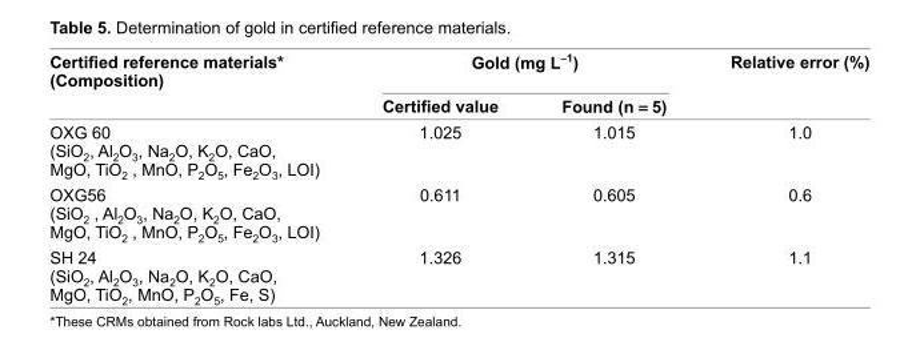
<table><thead><tr><td rowspan="2">Certifi ed reference materials* (Composition)</td><td colspan="2">Gold (mg L<sup>−1</sup>)</td><td rowspan="2">Relative error (%)</td></tr><tr><td>Certifi ed value</td><td>Found (n = 5)</td></tr></thead><tbody><tr><td>OXG 60 (SiO<sub>2</sub>, Al<sub>2</sub>O<sub>3</sub>, Na<sub>2</sub>O, K<sub>2</sub>O, CaO, MgO, TiO<sub>2</sub> , MnO, P<sub>2</sub>O<sub>5</sub>, Fe<sub>2</sub>O<sub>3</sub>, LOI)</td><td>1.025</td><td>1.015</td><td>1.0</td></tr><tr><td>OXG56 (SiO<sub>2</sub> , Al<sub>2</sub>O<sub>3</sub>, Na<sub>2</sub>O, K<sub>2</sub>O, CaO, MgO, TiO<sub>2</sub> , MnO, P<sub>2</sub>O<sub>5</sub>, Fe<sub>2</sub>O<sub>3</sub>, LOI)</td><td>0.611</td><td>0.605</td><td>0.6</td></tr><tr><td>SH 24 (SiO<sub>2</sub>, Al<sub>2</sub>O<sub>3</sub>, Na<sub>2</sub>O, K<sub>2</sub>O, CaO, MgO, TiO<sub>2</sub>, MnO, P<sub>2</sub>O<sub>5</sub>, Fe, S)</td><td>1.326</td><td>1.315</td><td>1.1</td></tr></tbody></table>